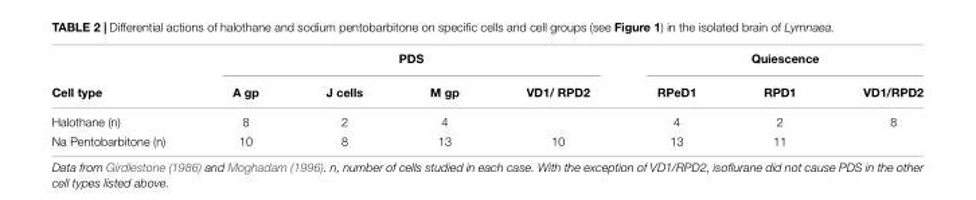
<table><thead><tr><td rowspan="2">Cell type</td><td colspan="4">PDS</td><td colspan="3">Quiescence</td></tr><tr><td>A gp</td><td>J cells</td><td>M gp</td><td>VD1/ RPD2</td><td>RPeD1</td><td>RPD1</td><td>VD1/RPD2</td></tr></thead><tbody><tr><td>Halothane (n)</td><td>8</td><td>2</td><td>4</td><td></td><td>4</td><td>2</td><td>8</td></tr><tr><td>Na Pentobarbitone (n)</td><td>10</td><td>8</td><td>13</td><td>10</td><td>13</td><td>11</td><td></td></tr></tbody></table>